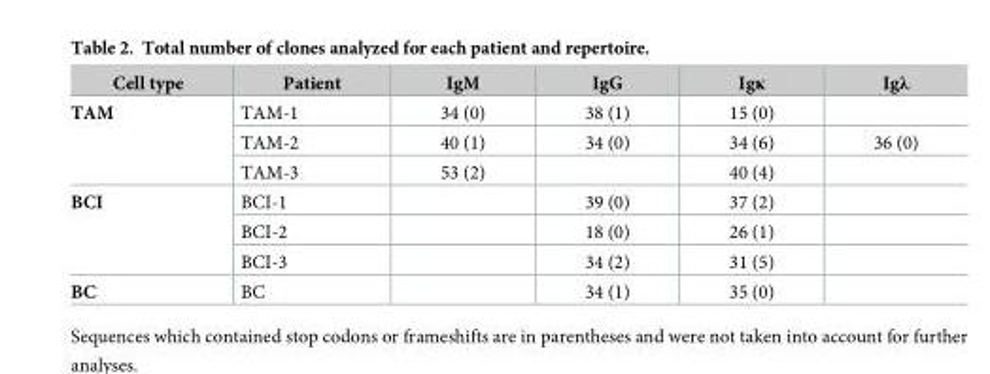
<table><thead><tr><td>Cell type</td><td>Patient</td><td>IgM</td><td>IgG</td><td>Igκ</td><td>Igλ</td></tr></thead><tbody><tr><td rowspan="3">TAM</td><td>TAM-1</td><td>34 (0)</td><td>38 (1)</td><td>15 (0)</td><td></td></tr><tr><td>TAM-2</td><td>40 (1)</td><td>34 (0)</td><td>34 (6)</td><td>36 (0)</td></tr><tr><td>TAM-3</td><td>53 (2)</td><td></td><td>40 (4)</td><td></td></tr><tr><td rowspan="3">BCI</td><td>BCI-1</td><td></td><td>39 (0)</td><td>37 (2)</td><td></td></tr><tr><td>BCI-2</td><td></td><td>18 (0)</td><td>26 (1)</td><td></td></tr><tr><td>BCI-3</td><td></td><td>34 (2)</td><td>31 (5)</td><td></td></tr><tr><td>BC</td><td>BC</td><td></td><td>34 (1)</td><td>35 (0)</td><td></td></tr></tbody></table>